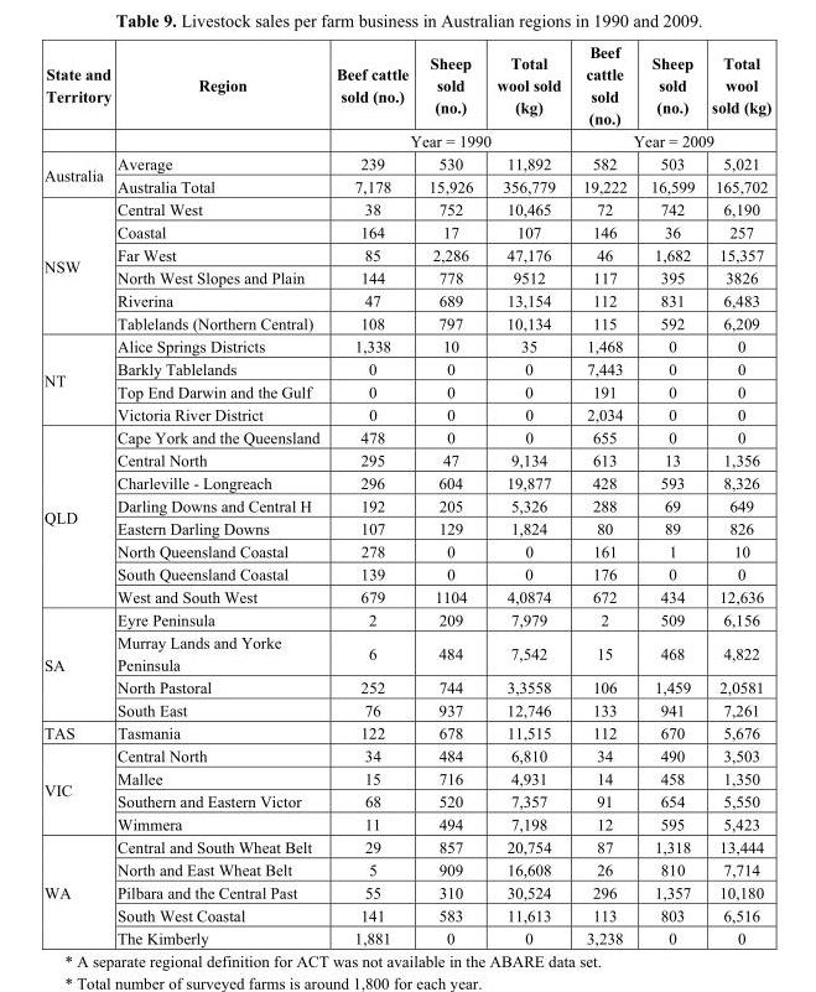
<table><thead><tr><td>State and Territory</td><td>Region</td><td>Beef cattle sold (no.)</td><td>Sheep sold (no.)</td><td>Total wool sold (kg)</td><td>Beef cattle sold (no.)</td><td>Sheep sold (no.)</td><td>Total wool sold (kg)</td></tr></thead><tbody><tr><td></td><td></td><td colspan="3">Year = 1990</td><td colspan="3">Year = 2009</td></tr><tr><td rowspan="2">Australia</td><td>Average</td><td>239</td><td>530</td><td>11,892</td><td>582</td><td>503</td><td>5,021</td></tr><tr><td>Australia Total</td><td>7,178</td><td>15,926</td><td>356,779</td><td>19,222</td><td>16,599</td><td>165,702</td></tr><tr><td rowspan="6">NSW</td><td>Central West</td><td>38</td><td>752</td><td>10,465</td><td>72</td><td>742</td><td>6,190</td></tr><tr><td>Coastal</td><td>164</td><td>17</td><td>107</td><td>146</td><td>36</td><td>257</td></tr><tr><td>Far West</td><td>85</td><td>2,286</td><td>47,176</td><td>46</td><td>1,682</td><td>15,357</td></tr><tr><td>North West Slopes and Plain</td><td>144</td><td>778</td><td>9512</td><td>117</td><td>395</td><td>3826</td></tr><tr><td>Riverina</td><td>47</td><td>689</td><td>13,154</td><td>112</td><td>831</td><td>6,483</td></tr><tr><td>Tablelands (Northern Central)</td><td>108</td><td>797</td><td>10,134</td><td>115</td><td>592</td><td>6,209</td></tr><tr><td rowspan="4">NT</td><td>Alice Springs Districts</td><td>1,338</td><td>10</td><td>35</td><td>1,468</td><td>0</td><td>0</td></tr><tr><td>Barkly Tablelands</td><td>0</td><td>0</td><td>0</td><td>7,443</td><td>0</td><td>0</td></tr><tr><td>Top End Darwin and the Gulf</td><td>0</td><td>0</td><td>0</td><td>191</td><td>0</td><td>0</td></tr><tr><td>Victoria River District</td><td>0</td><td>0</td><td>0</td><td>2,034</td><td>0</td><td>0</td></tr><tr><td rowspan="8">QLD</td><td>Cape York and the Queensland</td><td>478</td><td>0</td><td>0</td><td>655</td><td>0</td><td>0</td></tr><tr><td>Central North</td><td>295</td><td>47</td><td>9,134</td><td>613</td><td>13</td><td>1,356</td></tr><tr><td>Charleville - Longreach</td><td>296</td><td>604</td><td>19,877</td><td>428</td><td>593</td><td>8,326</td></tr><tr><td>Darling Downs and Central H</td><td>192</td><td>205</td><td>5,326</td><td>288</td><td>69</td><td>649</td></tr><tr><td>Eastern Darling Downs</td><td>107</td><td>129</td><td>1,824</td><td>80</td><td>89</td><td>826</td></tr><tr><td>North Queensland Coastal</td><td>278</td><td>0</td><td>0</td><td>161</td><td>1</td><td>10</td></tr><tr><td>South Queensland Coastal</td><td>139</td><td>0</td><td>0</td><td>176</td><td>0</td><td>0</td></tr><tr><td>West and South West</td><td>679</td><td>1104</td><td>4,0874</td><td>672</td><td>434</td><td>12,636</td></tr><tr><td rowspan="4">SA</td><td>Eyre Peninsula</td><td>2</td><td>209</td><td>7,979</td><td>2</td><td>509</td><td>6,156</td></tr><tr><td>Murray Lands and Yorke Peninsula</td><td>6</td><td>484</td><td>7,542</td><td>15</td><td>468</td><td>4,822</td></tr><tr><td>North Pastoral</td><td>252</td><td>744</td><td>3,3558</td><td>106</td><td>1,459</td><td>2,0581</td></tr><tr><td>South East</td><td>76</td><td>937</td><td>12,746</td><td>133</td><td>941</td><td>7,261</td></tr><tr><td>TAS</td><td>Tasmania</td><td>122</td><td>678</td><td>11,515</td><td>112</td><td>670</td><td>5,676</td></tr><tr><td rowspan="4">VIC</td><td>Central North</td><td>34</td><td>484</td><td>6,810</td><td>34</td><td>490</td><td>3,503</td></tr><tr><td>Mallee</td><td>15</td><td>716</td><td>4,931</td><td>14</td><td>458</td><td>1,350</td></tr><tr><td>Southern and Eastern Victor</td><td>68</td><td>520</td><td>7,357</td><td>91</td><td>654</td><td>5,550</td></tr><tr><td>Wimmera</td><td>11</td><td>494</td><td>7,198</td><td>12</td><td>595</td><td>5,423</td></tr><tr><td rowspan="5">WA</td><td>Central and South Wheat Belt</td><td>29</td><td>857</td><td>20,754</td><td>87</td><td>1,318</td><td>13,444</td></tr><tr><td>North and East Wheat Belt</td><td>5</td><td>909</td><td>16,608</td><td>26</td><td>810</td><td>7,714</td></tr><tr><td>Pilbara and the Central Past</td><td>55</td><td>310</td><td>30,524</td><td>296</td><td>1,357</td><td>10,180</td></tr><tr><td>South West Coastal</td><td>141</td><td>583</td><td>11,613</td><td>113</td><td>803</td><td>6,516</td></tr><tr><td>The Kimberly</td><td>1,881</td><td>0</td><td>0</td><td>3,238</td><td>0</td><td>0</td></tr></tbody></table>